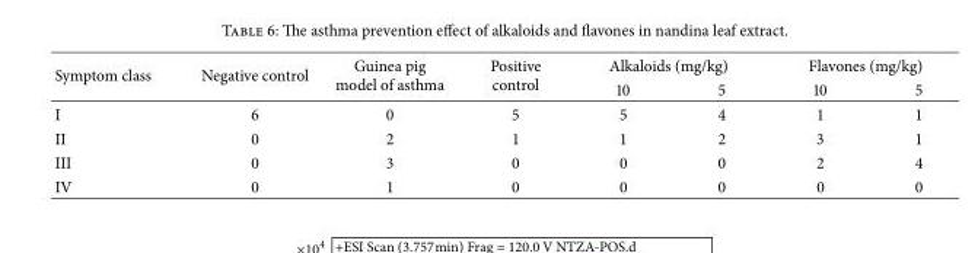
<table><thead><tr><td rowspan="2">Symptom class</td><td rowspan="2">Negative control</td><td rowspan="2">Guinea pig model of asthma</td><td rowspan="2">Positive control</td><td colspan="2">Alkaloids (mg/kg)</td><td colspan="2">Flavones (mg/kg)</td></tr><tr><td>10</td><td>5</td><td>10</td><td>5</td></tr></thead><tbody><tr><td>I</td><td>6</td><td>0</td><td>5</td><td>5</td><td>4</td><td>1</td><td>1</td></tr><tr><td>II</td><td>0</td><td>2</td><td>1</td><td>1</td><td>2</td><td>3</td><td>1</td></tr><tr><td>III</td><td>0</td><td>3</td><td>0</td><td>0</td><td>0</td><td>2</td><td>4</td></tr><tr><td>IV</td><td>0</td><td>1</td><td>0</td><td>0</td><td>0</td><td>0</td><td>0</td></tr></tbody></table>